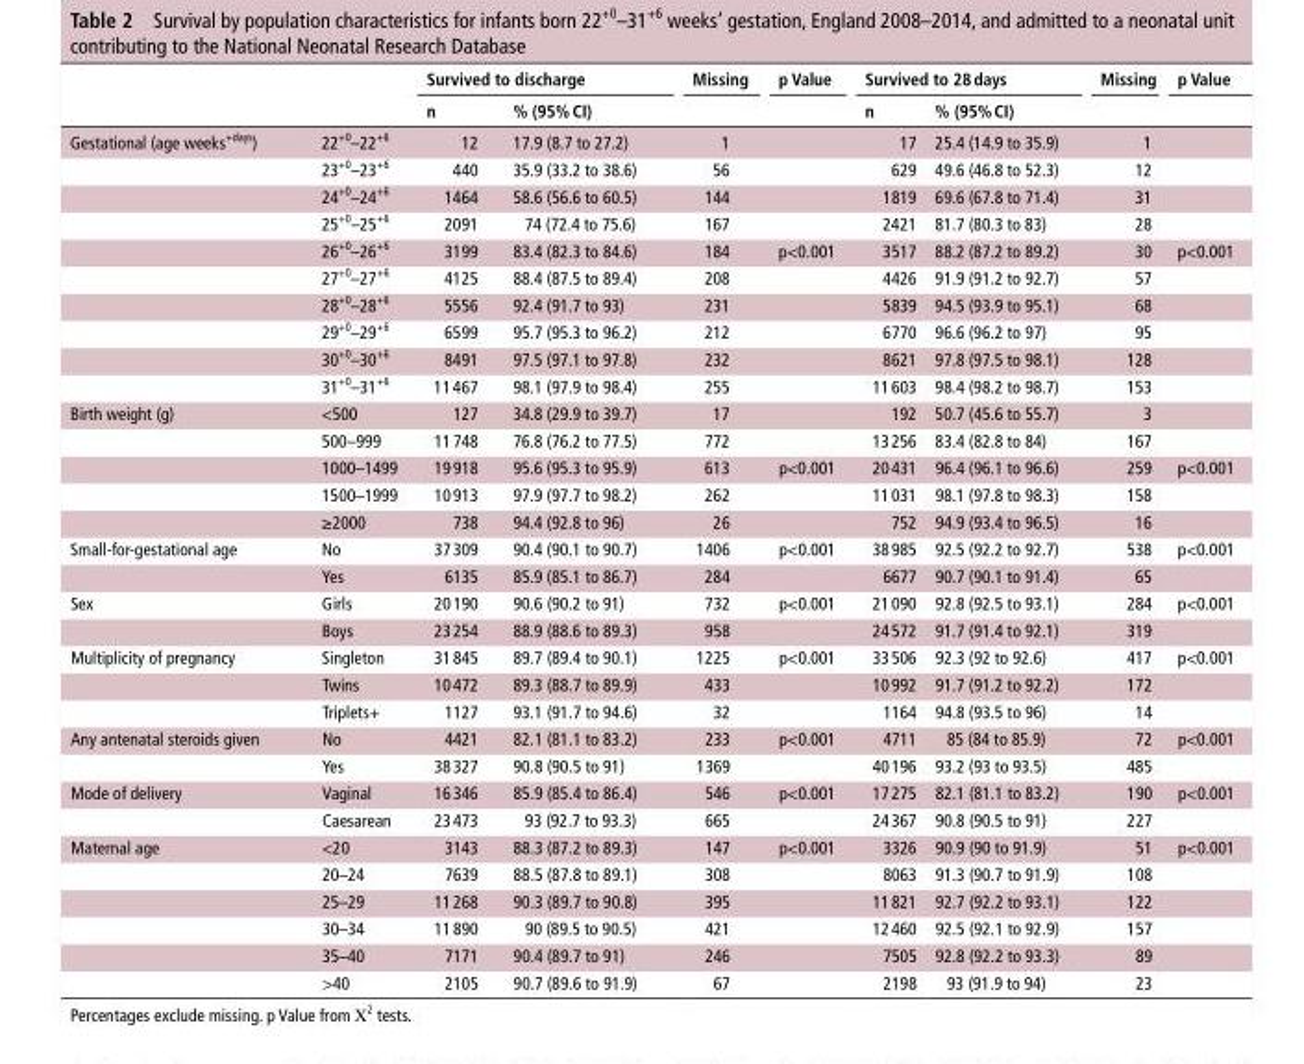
<table><thead><tr><td rowspan="2"></td><td rowspan="2"></td><td colspan="2">survived to discharge</td><td rowspan="2">Missing</td><td rowspan="2">p Value</td><td colspan="2">survived to 28 days</td><td rowspan="2">Missing</td><td rowspan="2">p Value</td></tr><tr><td>n</td><td>% (95% CI)</td><td>n</td><td>% (95% CI)</td></tr></thead><tbody><tr><td rowspan="10">Gestational (age weeks<sup>+days</sup>)</td><td>22<sup>+0</sup>–22<sup>+6</sup></td><td>12</td><td>17.9 (8.7 to 27.2)</td><td>1</td><td></td><td>17</td><td>25.4 (14.9 to 35.9)</td><td>1</td><td></td></tr><tr><td>23<sup>+0</sup>–23<sup>+6</sup></td><td>440</td><td>35.9 (33.2 to 38.6)</td><td>56</td><td></td><td>629</td><td>49.6 (46.8 to 52.3)</td><td>12</td><td></td></tr><tr><td>24<sup>+0</sup>–24<sup>+6</sup></td><td>1464</td><td>58.6 (56.6 to 60.5)</td><td>144</td><td></td><td>1819</td><td>69.6 (67.8 to 71.4)</td><td>31</td><td></td></tr><tr><td>25<sup>+0</sup>–25<sup>+6</sup></td><td>2091</td><td>74 (72.4 to 75.6)</td><td>167</td><td></td><td>2421</td><td>81.7 (80.3 to 83)</td><td>28</td><td></td></tr><tr><td>26<sup>+0</sup>–26<sup>+6</sup></td><td>3199</td><td>83.4 (82.3 to 84.6)</td><td>184</td><td>p&lt;0.001</td><td>3517</td><td>88.2 (87.2 to 89.2)</td><td>30</td><td>p&lt;0.001</td></tr><tr><td>27<sup>+0</sup>–27<sup>+6</sup></td><td>4125</td><td>88.4 (87.5 to 89.4)</td><td>208</td><td></td><td>4426</td><td>91.9 (91.2 to 92.7)</td><td>57</td><td></td></tr><tr><td>28<sup>+0</sup>–28<sup>+6</sup></td><td>5556</td><td>92.4 (91.7 to 93)</td><td>231</td><td></td><td>5839</td><td>94.5 (93.9 to 95.1)</td><td>68</td><td></td></tr><tr><td>29<sup>+0</sup>–29<sup>+6</sup></td><td>6599</td><td>95.7 (95.3 to 96.2)</td><td>212</td><td></td><td>6770</td><td>96.6 (96.2 to 97)</td><td>95</td><td></td></tr><tr><td>30<sup>+0</sup>–30<sup>+6</sup></td><td>8491</td><td>97.5 (97.1 to 97.8)</td><td>232</td><td></td><td>8621</td><td>97.8 (97.5 to 98.1)</td><td>128</td><td></td></tr><tr><td>31<sup>+0</sup>–31<sup>+6</sup></td><td>11 467</td><td>98.1 (97.9 to 98.4)</td><td>255</td><td></td><td>11 603</td><td>98.4 (98.2 to 98.7)</td><td>153</td><td></td></tr><tr><td rowspan="5">Birth weight (g)</td><td>&lt;500</td><td>127</td><td>34.8 (29.9 to 39.7)</td><td>17</td><td></td><td>192</td><td>50.7 (45.6 to 55.7)</td><td>3</td><td></td></tr><tr><td>500–999</td><td>11 748</td><td>76.8 (76.2 to 77.5)</td><td>772</td><td></td><td>13 256</td><td>83.4 (82.8 to 84)</td><td>167</td><td></td></tr><tr><td>1000–1499</td><td>19 918</td><td>95.6 (95.3 to 95.9)</td><td>613</td><td>p&lt;0.001</td><td>20 431</td><td>96.4 (96.1 to 96.6)</td><td>259</td><td>p&lt;0.001</td></tr><tr><td>1500–1999</td><td>10 913</td><td>97.9 (97.7 to 98.2)</td><td>262</td><td></td><td>11 031</td><td>98.1 (97.8 to 98.3)</td><td>158</td><td></td></tr><tr><td>≥2000</td><td>738</td><td>94.4 (92.8 to 96)</td><td>26</td><td></td><td>752</td><td>94.9 (93.4 to 96.5)</td><td>16</td><td></td></tr><tr><td rowspan="2">Small-for-gestational age</td><td>No</td><td>37 309</td><td>90.4 (90.1 to 90.7)</td><td>1406</td><td>p&lt;0.001</td><td>38 985</td><td>92.5 (92.2 to 92.7)</td><td>538</td><td>p&lt;0.001</td></tr><tr><td>Yes</td><td>6135</td><td>85.9 (85.1 to 86.7)</td><td>284</td><td></td><td>6677</td><td>90.7 (90.1 to 91.4)</td><td>65</td><td></td></tr><tr><td rowspan="2">Sex</td><td>Girls</td><td>20 190</td><td>90.6 (90.2 to 91)</td><td>732</td><td>p&lt;0.001</td><td>21 090</td><td>92.8 (92.5 to 93.1)</td><td>284</td><td>p&lt;0.001</td></tr><tr><td>Boys</td><td>23 254</td><td>88.9 (88.6 to 89.3)</td><td>958</td><td></td><td>24 572</td><td>91.7 (91.4 to 92.1)</td><td>319</td><td></td></tr><tr><td rowspan="3">Multiplicity of pregnancy</td><td>Singleton</td><td>31 845</td><td>89.7 (89.4 to 90.1)</td><td>1225</td><td>p&lt;0.001</td><td>33 506</td><td>92.3 (92 to 92.6)</td><td>417</td><td>p&lt;0.001</td></tr><tr><td>Twins</td><td>10 472</td><td>89.3 (88.7 to 89.9)</td><td>433</td><td></td><td>10 992</td><td>91.7 (91.2 to 92.2)</td><td>172</td><td></td></tr><tr><td>Triplets+</td><td>1127</td><td>93.1 (91.7 to 94.6)</td><td>32</td><td></td><td>1164</td><td>94.8 (93.5 to 96)</td><td>14</td><td></td></tr><tr><td rowspan="2">Any antenatal steroids given</td><td>No</td><td>4421</td><td>82.1 (81.1 to 83.2)</td><td>233</td><td>p&lt;0.001</td><td>4711</td><td>85 (84 to 85.9)</td><td>72</td><td>p&lt;0.001</td></tr><tr><td>Yes</td><td>38 327</td><td>90.8 (90.5 to 91)</td><td>1369</td><td></td><td>40 196</td><td>93.2 (93 to 93.5)</td><td>485</td><td></td></tr><tr><td rowspan="2">Mode of delivery</td><td>Vaginal</td><td>16 346</td><td>85.9 (85.4 to 86.4)</td><td>546</td><td>p&lt;0.001</td><td>17 275</td><td>82.1 (81.1 to 83.2)</td><td>190</td><td>p&lt;0.001</td></tr><tr><td>Caesarean</td><td>23 473</td><td>93 (92.7 to 93.3)</td><td>665</td><td></td><td>24 367</td><td>90.8 (90.5 to 91)</td><td>227</td><td></td></tr><tr><td rowspan="6">Maternal age</td><td>&lt;20</td><td>3143</td><td>88.3 (87.2 to 89.3)</td><td>147</td><td>p&lt;0.001</td><td>3326</td><td>90.9 (90 to 91.9)</td><td>51</td><td>p&lt;0.001</td></tr><tr><td>20–24</td><td>7639</td><td>88.5 (87.8 to 89.1)</td><td>308</td><td></td><td>8063</td><td>91.3 (90.7 to 91.9)</td><td>108</td><td></td></tr><tr><td>25–29</td><td>11 268</td><td>90.3 (89.7 to 90.8)</td><td>395</td><td></td><td>11 821</td><td>92.7 (92.2 to 93.1)</td><td>122</td><td></td></tr><tr><td>30–34</td><td>11 890</td><td>90 (89.5 to 90.5)</td><td>421</td><td></td><td>12 460</td><td>92.5 (92.1 to 92.9)</td><td>157</td><td></td></tr><tr><td>35–40</td><td>7171</td><td>90.4 (89.7 to 91)</td><td>246</td><td></td><td>7505</td><td>92.8 (92.2 to 93.3)</td><td>89</td><td></td></tr><tr><td>&gt;40</td><td>2105</td><td>90.7 (89.6 to 91.9)</td><td>67</td><td></td><td>2198</td><td>93 (91.9 to 94)</td><td>23</td><td></td></tr></tbody></table>